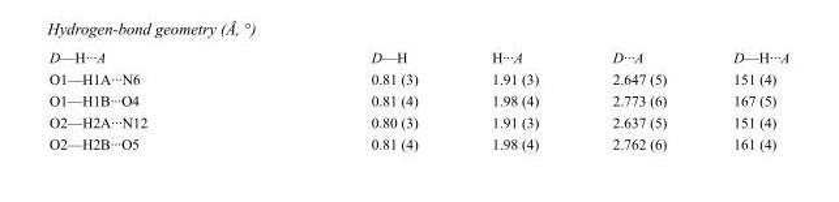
<table><tbody><tr><td>D—H···A</td><td>D—H</td><td>H···A</td><td>D···A</td><td>D—H···A</td></tr><tr><td>O1—H1A···N6</td><td>0.81 (3)</td><td>1.91 (3)</td><td>2.647 (5)</td><td>151 (4)</td></tr><tr><td>O1—H1B···O4</td><td>0.81 (4)</td><td>1.98 (4)</td><td>2.773 (6)</td><td>167 (5)</td></tr><tr><td>O2—H2A···N12</td><td>0.80 (3)</td><td>1.91 (3)</td><td>2.637 (5)</td><td>151 (4)</td></tr><tr><td>O2—H2B···O5</td><td>0.81 (4)</td><td>1.98 (4)</td><td>2.762 (6)</td><td>161 (4)</td></tr></tbody></table>